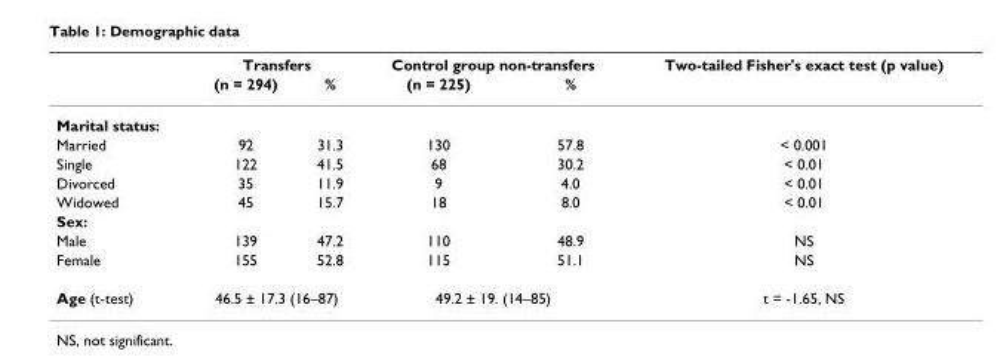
<table><thead><tr><td rowspan="2"></td><td colspan="2">Transfers</td><td colspan="2">Control group non-transfers</td><td rowspan="2">Two-tailed Fisher&#x27;s exact test (p value)</td></tr><tr><td>(n = 294)</td><td>%</td><td>(n = 225)</td><td>%</td></tr></thead><tbody><tr><td colspan="6">Marital status:</td></tr><tr><td>Married</td><td>92</td><td>31.3</td><td>130</td><td>57.8</td><td>&lt; 0.001</td></tr><tr><td>Single</td><td>122</td><td>41.5</td><td>68</td><td>30.2</td><td>&lt; 0.01</td></tr><tr><td>Divorced</td><td>35</td><td>11.9</td><td>9</td><td>4.0</td><td>&lt; 0.01</td></tr><tr><td>Widowed</td><td>45</td><td>15.7</td><td>18</td><td>8.0</td><td>&lt; 0.01</td></tr><tr><td colspan="6">Sex:</td></tr><tr><td>Male</td><td>139</td><td>47.2</td><td>110</td><td>48.9</td><td>NS</td></tr><tr><td>Female</td><td>155</td><td>52.8</td><td>115</td><td>51.1</td><td>NS</td></tr><tr><td>Age (t-test)</td><td colspan="2">46.5 ± 17.3 (16–87)</td><td colspan="2">49.2 ± 19. (14–85)</td><td>t = -1.65, NS</td></tr></tbody></table>